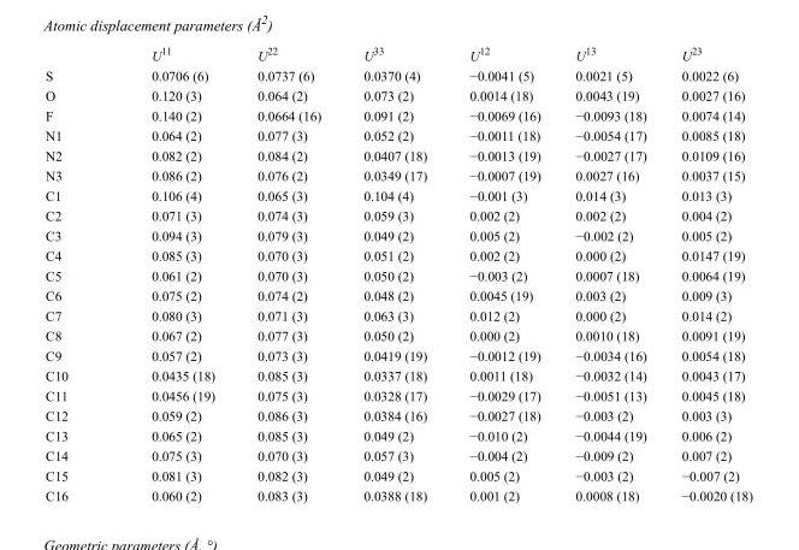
<table><thead><tr><td></td><td>U<sup>11</sup></td><td>U<sup>22</sup></td><td>U<sup>33</sup></td><td>U<sup>12</sup></td><td>U<sup>13</sup></td><td>U<sup>23</sup></td></tr></thead><tbody><tr><td>S</td><td>0.0706 (6)</td><td>0.0737 (6)</td><td>0.0370 (4)</td><td>−0.0041 (5)</td><td>0.0021 (5)</td><td>0.0022 (6)</td></tr><tr><td>O</td><td>0.120 (3)</td><td>0.064 (2)</td><td>0.073 (2)</td><td>0.0014 (18)</td><td>0.0043 (19)</td><td>0.0027 (16)</td></tr><tr><td>F</td><td>0.140 (2)</td><td>0.0664 (16)</td><td>0.091 (2)</td><td>−0.0069 (16)</td><td>−0.0093 (18)</td><td>0.0074 (14)</td></tr><tr><td>N1</td><td>0.064 (2)</td><td>0.077 (3)</td><td>0.052 (2)</td><td>−0.0011 (18)</td><td>−0.0054 (17)</td><td>0.0085 (18)</td></tr><tr><td>N2</td><td>0.082 (2)</td><td>0.084 (2)</td><td>0.0407 (18)</td><td>−0.0013 (19)</td><td>−0.0027 (17)</td><td>0.0109 (16)</td></tr><tr><td>N3</td><td>0.086 (2)</td><td>0.076 (2)</td><td>0.0349 (17)</td><td>−0.0007 (19)</td><td>0.0027 (16)</td><td>0.0037 (15)</td></tr><tr><td>C1</td><td>0.106 (4)</td><td>0.065 (3)</td><td>0.104 (4)</td><td>−0.001 (3)</td><td>0.014 (3)</td><td>0.013 (3)</td></tr><tr><td>C2</td><td>0.071 (3)</td><td>0.074 (3)</td><td>0.059 (3)</td><td>0.002 (2)</td><td>0.002 (2)</td><td>0.004 (2)</td></tr><tr><td>C3</td><td>0.094 (3)</td><td>0.079 (3)</td><td>0.049 (2)</td><td>0.005 (2)</td><td>−0.002 (2)</td><td>0.005 (2)</td></tr><tr><td>C4</td><td>0.085 (3)</td><td>0.070 (3)</td><td>0.051 (2)</td><td>0.002 (2)</td><td>0.000 (2)</td><td>0.0147 (19)</td></tr><tr><td>C5</td><td>0.061 (2)</td><td>0.070 (3)</td><td>0.050 (2)</td><td>−0.003 (2)</td><td>0.0007 (18)</td><td>0.0064 (19)</td></tr><tr><td>C6</td><td>0.075 (2)</td><td>0.074 (2)</td><td>0.048 (2)</td><td>0.0045 (19)</td><td>0.003 (2)</td><td>0.009 (3)</td></tr><tr><td>C7</td><td>0.080 (3)</td><td>0.071 (3)</td><td>0.063 (3)</td><td>0.012 (2)</td><td>0.000 (2)</td><td>0.014 (2)</td></tr><tr><td>C8</td><td>0.067 (2)</td><td>0.077 (3)</td><td>0.050 (2)</td><td>0.000 (2)</td><td>0.0010 (18)</td><td>0.0091 (19)</td></tr><tr><td>C9</td><td>0.057 (2)</td><td>0.073 (3)</td><td>0.0419 (19)</td><td>−0.0012 (19)</td><td>−0.0034 (16)</td><td>0.0054 (18)</td></tr><tr><td>C10</td><td>0.0435 (18)</td><td>0.085 (3)</td><td>0.0337 (18)</td><td>0.0011 (18)</td><td>−0.0032 (14)</td><td>0.0043 (17)</td></tr><tr><td>C11</td><td>0.0456 (19)</td><td>0.075 (3)</td><td>0.0328 (17)</td><td>−0.0029 (17)</td><td>−0.0051 (13)</td><td>0.0045 (18)</td></tr><tr><td>C12</td><td>0.059 (2)</td><td>0.086 (3)</td><td>0.0384 (16)</td><td>−0.0027 (18)</td><td>−0.003 (2)</td><td>0.003 (3)</td></tr><tr><td>C13</td><td>0.065 (2)</td><td>0.085 (3)</td><td>0.049 (2)</td><td>−0.010 (2)</td><td>−0.0044 (19)</td><td>0.006 (2)</td></tr><tr><td>C14</td><td>0.075 (3)</td><td>0.070 (3)</td><td>0.057 (3)</td><td>−0.004 (2)</td><td>−0.009 (2)</td><td>0.007 (2)</td></tr><tr><td>C15</td><td>0.081 (3)</td><td>0.082 (3)</td><td>0.049 (2)</td><td>0.005 (2)</td><td>−0.003 (2)</td><td>−0.007 (2)</td></tr><tr><td>C16</td><td>0.060 (2)</td><td>0.083 (3)</td><td>0.0388 (18)</td><td>0.001 (2)</td><td>0.0008 (18)</td><td>−0.0020 (18)</td></tr></tbody></table>